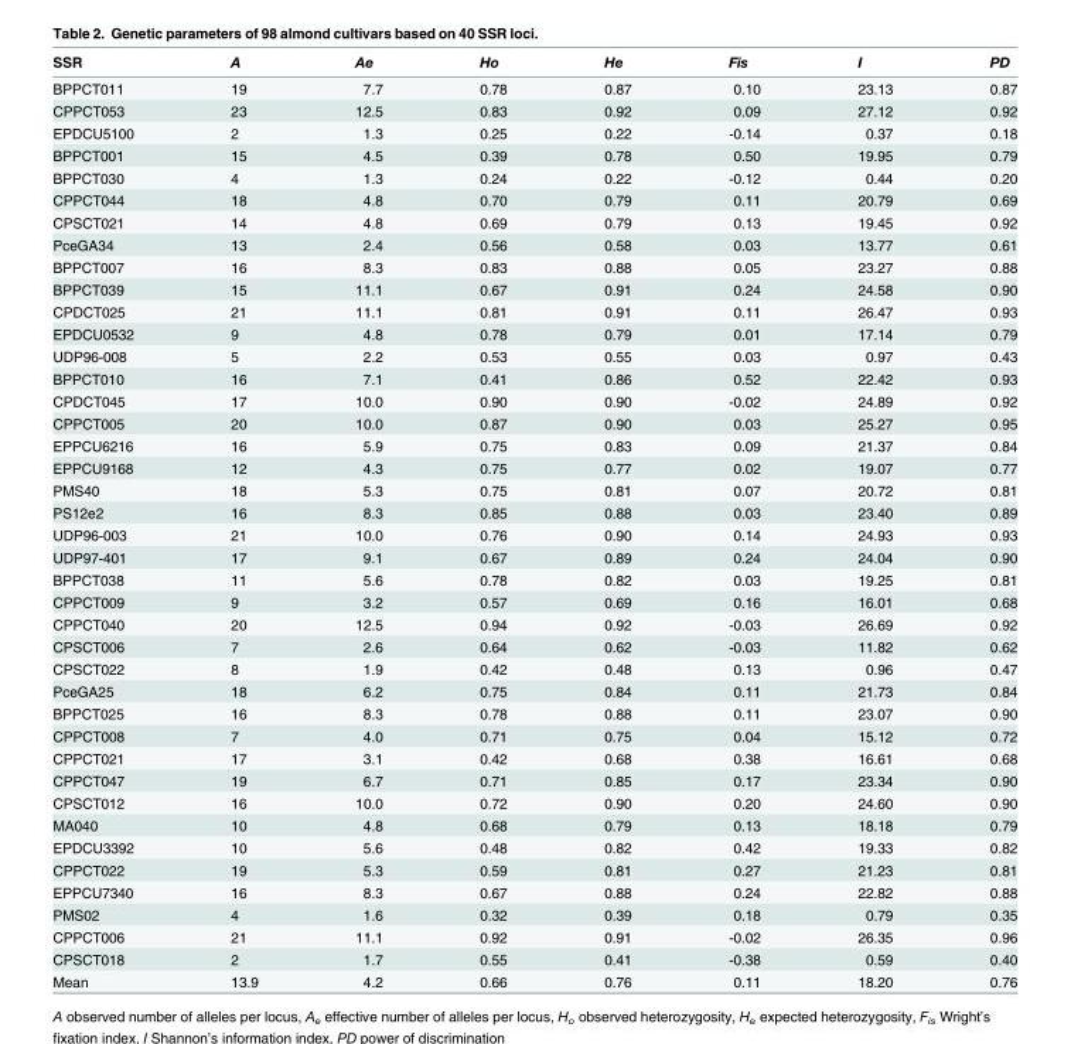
<table><thead><tr><td>SSR</td><td>A</td><td>Ae</td><td>Ho</td><td>He</td><td>Fis</td><td>I</td><td>PD</td></tr></thead><tbody><tr><td>BPPCT011</td><td>19</td><td>7.7</td><td>0.78</td><td>0.87</td><td>0.10</td><td>23.13</td><td>0.87</td></tr><tr><td>CPPCT053</td><td>23</td><td>12.5</td><td>0.83</td><td>0.92</td><td>0.09</td><td>27.12</td><td>0.92</td></tr><tr><td>EPDCU5100</td><td>2</td><td>1.3</td><td>0.25</td><td>0.22</td><td>-0.14</td><td>0.37</td><td>0.18</td></tr><tr><td>BPPCT001</td><td>15</td><td>4.5</td><td>0.39</td><td>0.78</td><td>0.50</td><td>19.95</td><td>0.79</td></tr><tr><td>BPPCT030</td><td>4</td><td>1.3</td><td>0.24</td><td>0.22</td><td>-0.12</td><td>0.44</td><td>0.20</td></tr><tr><td>CPPCT044</td><td>18</td><td>4.8</td><td>0.70</td><td>0.79</td><td>0.11</td><td>20.79</td><td>0.69</td></tr><tr><td>CPSCT021</td><td>14</td><td>4.8</td><td>0.69</td><td>0.79</td><td>0.13</td><td>19.45</td><td>0.92</td></tr><tr><td>PceGA34</td><td>13</td><td>2.4</td><td>0.56</td><td>0.58</td><td>0.03</td><td>13.77</td><td>0.61</td></tr><tr><td>BPPCT007</td><td>16</td><td>8.3</td><td>0.83</td><td>0.88</td><td>0.05</td><td>23.27</td><td>0.88</td></tr><tr><td>BPPCT039</td><td>15</td><td>11.1</td><td>0.67</td><td>0.91</td><td>0.24</td><td>24.58</td><td>0.90</td></tr><tr><td>CPDCT025</td><td>21</td><td>11.1</td><td>0.81</td><td>0.91</td><td>0.11</td><td>26.47</td><td>0.93</td></tr><tr><td>EPDCU0532</td><td>9</td><td>4.8</td><td>0.78</td><td>0.79</td><td>0.01</td><td>17.14</td><td>0.79</td></tr><tr><td>UDP96-008</td><td>5</td><td>2.2</td><td>0.53</td><td>0.55</td><td>0.03</td><td>0.97</td><td>0.43</td></tr><tr><td>BPPCT010</td><td>16</td><td>7.1</td><td>0.41</td><td>0.86</td><td>0.52</td><td>22.42</td><td>0.93</td></tr><tr><td>CPDCT045</td><td>17</td><td>10.0</td><td>0.90</td><td>0.90</td><td>-0.02</td><td>24.89</td><td>0.92</td></tr><tr><td>CPPCT005</td><td>20</td><td>10.0</td><td>0.87</td><td>0.90</td><td>0.03</td><td>25.27</td><td>0.95</td></tr><tr><td>EPPCU6216</td><td>16</td><td>5.9</td><td>0.75</td><td>0.83</td><td>0.09</td><td>21.37</td><td>0.84</td></tr><tr><td>EPPCU9168</td><td>12</td><td>4.3</td><td>0.75</td><td>0.77</td><td>0.02</td><td>19.07</td><td>0.77</td></tr><tr><td>PMS40</td><td>18</td><td>5.3</td><td>0.75</td><td>0.81</td><td>0.07</td><td>20.72</td><td>0.81</td></tr><tr><td>PS12e2</td><td>16</td><td>8.3</td><td>0.85</td><td>0.88</td><td>0.03</td><td>23.40</td><td>0.89</td></tr><tr><td>UDP96-003</td><td>21</td><td>10.0</td><td>0.76</td><td>0.90</td><td>0.14</td><td>24.93</td><td>0.93</td></tr><tr><td>UDP97-401</td><td>17</td><td>9.1</td><td>0.67</td><td>0.89</td><td>0.24</td><td>24.04</td><td>0.90</td></tr><tr><td>BPPCT038</td><td>11</td><td>5.6</td><td>0.78</td><td>0.82</td><td>0.03</td><td>19.25</td><td>0.81</td></tr><tr><td>CPPCT009</td><td>9</td><td>3.2</td><td>0.57</td><td>0.69</td><td>0.16</td><td>16.01</td><td>0.68</td></tr><tr><td>CPPCT040</td><td>20</td><td>12.5</td><td>0.94</td><td>0.92</td><td>-0.03</td><td>26.69</td><td>0.92</td></tr><tr><td>CPSCT006</td><td>7</td><td>2.6</td><td>0.64</td><td>0.62</td><td>-0.03</td><td>11.82</td><td>0.62</td></tr><tr><td>CPSCT022</td><td>8</td><td>1.9</td><td>0.42</td><td>0.48</td><td>0.13</td><td>0.96</td><td>0.47</td></tr><tr><td>PceGA25</td><td>18</td><td>6.2</td><td>0.75</td><td>0.84</td><td>0.11</td><td>21.73</td><td>0.84</td></tr><tr><td>BPPCT025</td><td>16</td><td>8.3</td><td>0.78</td><td>0.88</td><td>0.11</td><td>23.07</td><td>0.90</td></tr><tr><td>CPPCT008</td><td>7</td><td>4.0</td><td>0.71</td><td>0.75</td><td>0.04</td><td>15.12</td><td>0.72</td></tr><tr><td>CPPCT021</td><td>17</td><td>3.1</td><td>0.42</td><td>0.68</td><td>0.38</td><td>16.61</td><td>0.68</td></tr><tr><td>CPPCT047</td><td>19</td><td>6.7</td><td>0.71</td><td>0.85</td><td>0.17</td><td>23.34</td><td>0.90</td></tr><tr><td>CPSCT012</td><td>16</td><td>10.0</td><td>0.72</td><td>0.90</td><td>0.20</td><td>24.60</td><td>0.90</td></tr><tr><td>MA040</td><td>10</td><td>4.8</td><td>0.68</td><td>0.79</td><td>0.13</td><td>18.18</td><td>0.79</td></tr><tr><td>EPDCU3392</td><td>10</td><td>5.6</td><td>0.48</td><td>0.82</td><td>0.42</td><td>19.33</td><td>0.82</td></tr><tr><td>CPPCT022</td><td>19</td><td>5.3</td><td>0.59</td><td>0.81</td><td>0.27</td><td>21.23</td><td>0.81</td></tr><tr><td>EPPCU7340</td><td>16</td><td>8.3</td><td>0.67</td><td>0.88</td><td>0.24</td><td>22.82</td><td>0.88</td></tr><tr><td>PMS02</td><td>4</td><td>1.6</td><td>0.32</td><td>0.39</td><td>0.18</td><td>0.79</td><td>0.35</td></tr><tr><td>CPPCT006</td><td>21</td><td>11.1</td><td>0.92</td><td>0.91</td><td>-0.02</td><td>26.35</td><td>0.96</td></tr><tr><td>CPSCT018</td><td>2</td><td>1.7</td><td>0.55</td><td>0.41</td><td>-0.38</td><td>0.59</td><td>0.40</td></tr><tr><td>Mean</td><td>13.9</td><td>4.2</td><td>0.66</td><td>0.76</td><td>0.11</td><td>18.20</td><td>0.76</td></tr></tbody></table>